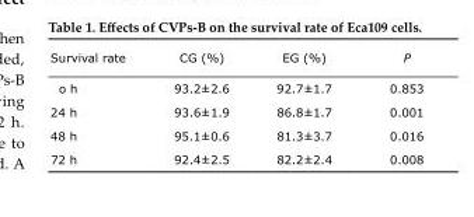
<table><thead><tr><td>Survival rate</td><td>CG (%)</td><td>EG (%)</td><td>P</td></tr></thead><tbody><tr><td>o h</td><td>93.2±2.6</td><td>92.7±1.7</td><td>0.853</td></tr><tr><td>24 h</td><td>93.6±1.9</td><td>86.8±1.7</td><td>0.001</td></tr><tr><td>48 h</td><td>95.1±0.6</td><td>81.3±3.7</td><td>0.016</td></tr><tr><td>72 h</td><td>92.4±2.5</td><td>82.2±2.4</td><td>0.008</td></tr></tbody></table>